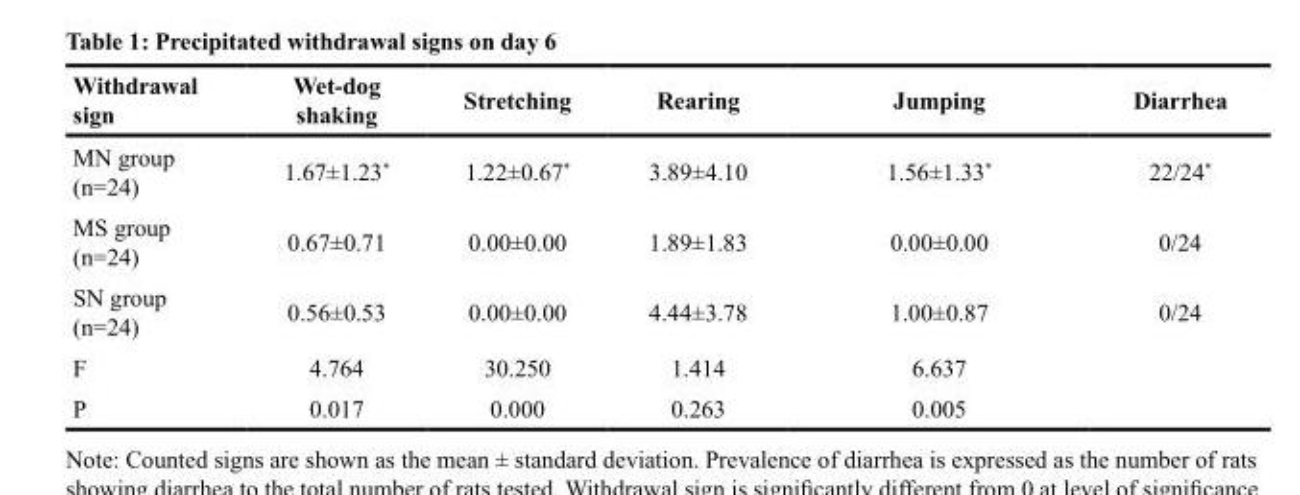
<table><thead><tr><td>Withdrawal sign</td><td>Wet-dog shaking</td><td>Stretching</td><td>Rearing</td><td>Jumping</td><td>Diarrhea</td></tr></thead><tbody><tr><td>MN group (n=24)</td><td>1.67±1.23*</td><td>1.22±0.67*</td><td>3.89±4.10</td><td>1.56±1.33*</td><td>22/24*</td></tr><tr><td>MS group (n=24)</td><td>0.67±0.71</td><td>0.00±0.00</td><td>1.89±1.83</td><td>0.00±0.00</td><td>0/24</td></tr><tr><td>SN group (n=24)</td><td>0.56±0.53</td><td>0.00±0.00</td><td>4.44±3.78</td><td>1.00±0.87</td><td>0/24</td></tr><tr><td>F</td><td>4.764</td><td>30.250</td><td>1.414</td><td>6.637</td><td></td></tr><tr><td>P</td><td>0.017</td><td>0.000</td><td>0.263</td><td>0.005</td><td></td></tr></tbody></table>